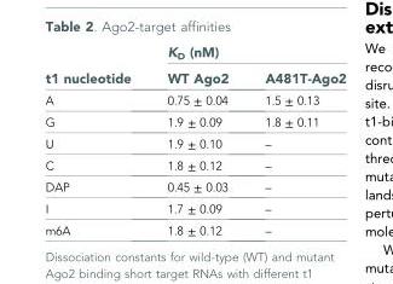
<table><thead><tr><td rowspan="2">t1 nucleotide</td><td colspan="2">K<sub>D</sub> (nM)</td></tr><tr><td>WT Ago2</td><td>A481T-Ago2</td></tr></thead><tbody><tr><td>A</td><td>0.75 ± 0.04</td><td>1.5 ± 0.13</td></tr><tr><td>G</td><td>1.9 ± 0.09</td><td>1.8 ± 0.11</td></tr><tr><td>U</td><td>1.9 ± 0.10</td><td>–</td></tr><tr><td>C</td><td>1.8 ± 0.12</td><td>–</td></tr><tr><td>DAP</td><td>0.45 ± 0.03</td><td>–</td></tr><tr><td>I</td><td>1.7 ± 0.09</td><td>–</td></tr><tr><td>m6A</td><td>1.8 ± 0.12</td><td>–</td></tr></tbody></table>